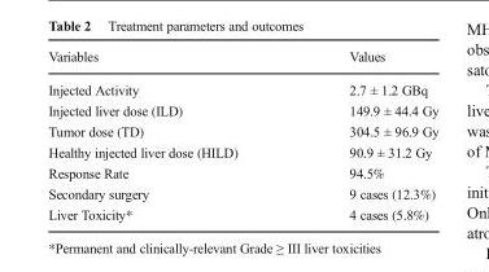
<table><thead><tr><td>Variables</td><td>Values</td></tr></thead><tbody><tr><td>Injected Activity</td><td>2.7 ± 1.2 GBq</td></tr><tr><td>Injected liver dose (ILD)</td><td>149.9 ± 44.4 Gy</td></tr><tr><td>Tumor dose (TD)</td><td>304.5 ± 96.9 Gy</td></tr><tr><td>Healthy injected liver dose (HILD)</td><td>90.9 ± 31.2 Gy</td></tr><tr><td>Response Rate</td><td>94.5%</td></tr><tr><td>Secondary surgery</td><td>9 cases (12.3%)</td></tr><tr><td>Liver Toxicity*</td><td>4 cases (5.8%)</td></tr></tbody></table>